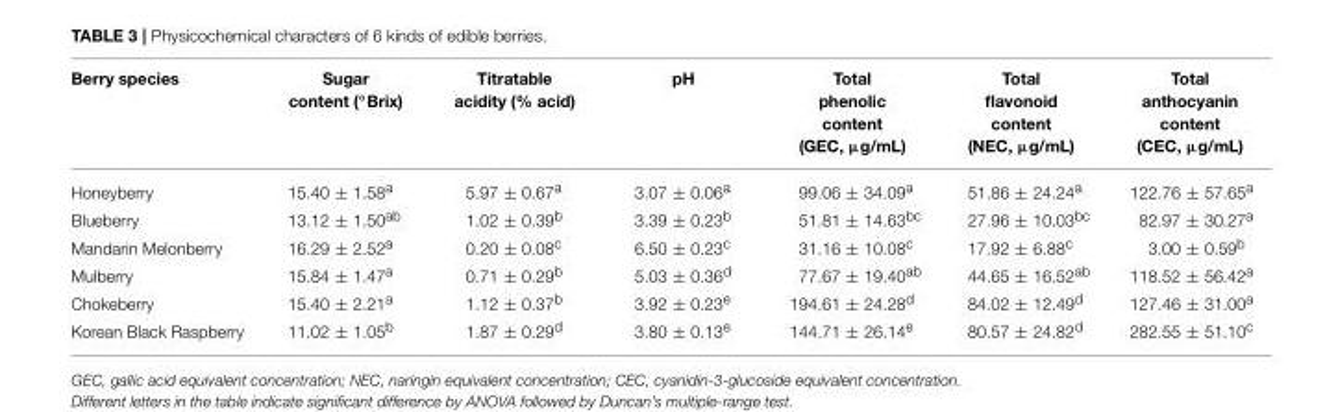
<table><thead><tr><td>Berry species</td><td>Sugar content (◦Brix)</td><td>Titratable acidity (% acid)</td><td>pH</td><td>Total phenolic content (GEC, µg/mL)</td><td>Total flavonoid content (NEC, µg/mL)</td><td>Total anthocyanin content (CEC, µg/mL)</td></tr></thead><tbody><tr><td>Honeyberry</td><td>15.40 ± 1.58<sup>a</sup></td><td>5.97 ± 0.67<sup>a</sup></td><td>3.07 ± 0.06<sup>a</sup></td><td>99.06 ± 34.09<sup>a</sup></td><td>51.86 ± 24.24<sup>a</sup></td><td>122.76 ± 57.65<sup>a</sup></td></tr><tr><td>Blueberry</td><td>13.12 ± 1.50<sup>ab</sup></td><td>1.02 ± 0.39<sup>b</sup></td><td>3.39 ± 0.23<sup>b</sup></td><td>51.81 ± 14.63<sup>bc</sup></td><td>27.96 ± 10.03<sup>bc</sup></td><td>82.97 ± 30.27<sup>a</sup></td></tr><tr><td>Mandarin Melonberry</td><td>16.29 ± 2.52<sup>a</sup></td><td>0.20 ± 0.08<sup>c</sup></td><td>6.50 ± 0.23<sup>c</sup></td><td>31.16 ± 10.08<sup>c</sup></td><td>17.92 ± 6.88<sup>c</sup></td><td>3.00 ± 0.59<sup>b</sup></td></tr><tr><td>Mulberry</td><td>15.84 ± 1.47<sup>a</sup></td><td>0.71 ± 0.29<sup>b</sup></td><td>5.03 ± 0.36<sup>d</sup></td><td>77.67 ± 19.40<sup>ab</sup></td><td>44.65 ± 16.52<sup>ab</sup></td><td>118.52 ± 56.42<sup>a</sup></td></tr><tr><td>Chokeberry</td><td>15.40 ± 2.21<sup>a</sup></td><td>1.12 ± 0.37<sup>b</sup></td><td>3.92 ± 0.23<sup>e</sup></td><td>194.61 ± 24.28<sup>d</sup></td><td>84.02 ± 12.49<sup>d</sup></td><td>127.46 ± 31.00<sup>a</sup></td></tr><tr><td>Korean Black Raspberry</td><td>11.02 ± 1.05<sup>b</sup></td><td>1.87 ± 0.29<sup>d</sup></td><td>3.80 ± 0.13<sup>e</sup></td><td>144.71 ± 26.14<sup>e</sup></td><td>80.57 ± 24.82<sup>d</sup></td><td>282.55 ± 51.10<sup>c</sup></td></tr></tbody></table>